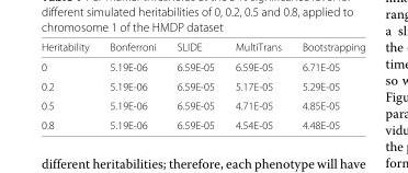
<table><thead><tr><td>Heritability</td><td>Bonferroni</td><td>SLIDE</td><td>MultiTrans</td><td>Bootstrapping</td></tr></thead><tbody><tr><td>0</td><td>5.19E-06</td><td>6.59E-05</td><td>6.59E-05</td><td>6.71E-05</td></tr><tr><td>0.2</td><td>5.19E-06</td><td>6.59E-05</td><td>5.17E-05</td><td>5.29E-05</td></tr><tr><td>0.5</td><td>5.19E-06</td><td>6.59E-05</td><td>4.71E-05</td><td>4.85E-05</td></tr><tr><td>0.8</td><td>5.19E-06</td><td>6.59E-05</td><td>4.54E-05</td><td>4.48E-05</td></tr></tbody></table>